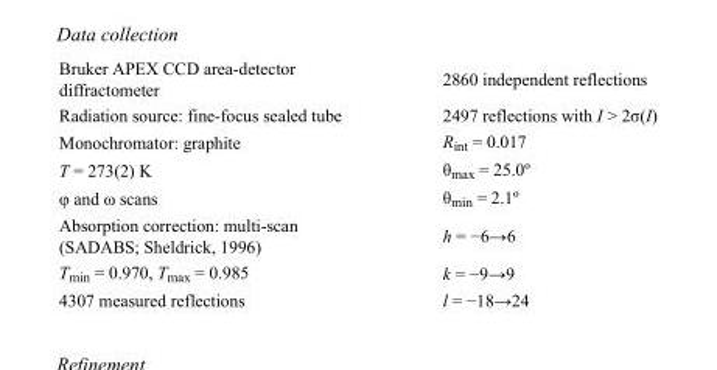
<table><tbody><tr><td>Bruker APEX CCD area-detector diffractometer</td><td>2860 independent reflections</td></tr><tr><td>Radiation source: fine-focus sealed tube</td><td>2497 reflections with I &gt; 2σ(I)</td></tr><tr><td>Monochromator: graphite</td><td>R<sub>int</sub> = 0.017</td></tr><tr><td>T = 273(2) K</td><td>θ<sub>max</sub> = 25.0º</td></tr><tr><td>φ and ω scans</td><td>θ<sub>min</sub> = 2.1º</td></tr><tr><td>Absorption correction: multi-scan (SADABS; Sheldrick, 1996)</td><td>h = −6→6</td></tr><tr><td>T<sub>min</sub> = 0.970, T<sub>max</sub> = 0.985</td><td>k = −9→9</td></tr><tr><td>4307 measured reflections</td><td>l = −18→24</td></tr></tbody></table>